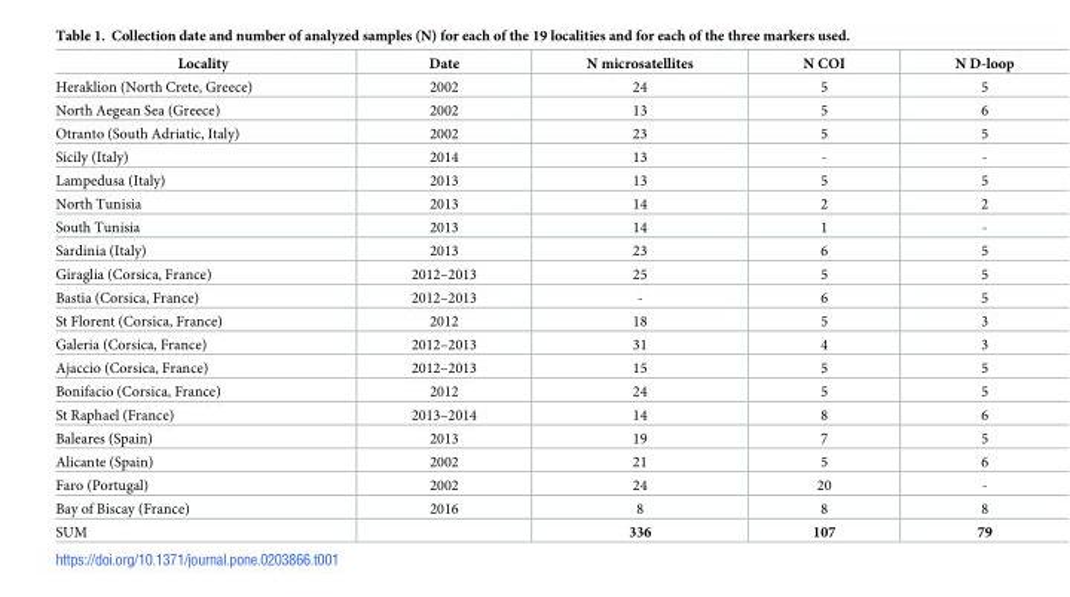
<table><thead><tr><td>Locality</td><td>Date</td><td>N microsatellites</td><td>N COI</td><td>N D-loop</td></tr></thead><tbody><tr><td>Heraklion (North Crete, Greece)</td><td>2002</td><td>24</td><td>5</td><td>5</td></tr><tr><td>North Aegean Sea (Greece)</td><td>2002</td><td>13</td><td>5</td><td>6</td></tr><tr><td>Otranto (South Adriatic, Italy)</td><td>2002</td><td>23</td><td>5</td><td>5</td></tr><tr><td>Sicily (Italy)</td><td>2014</td><td>13</td><td>-</td><td>-</td></tr><tr><td>Lampedusa (Italy)</td><td>2013</td><td>13</td><td>5</td><td>5</td></tr><tr><td>North Tunisia</td><td>2013</td><td>14</td><td>2</td><td>2</td></tr><tr><td>South Tunisia</td><td>2013</td><td>14</td><td>1</td><td>-</td></tr><tr><td>Sardinia (Italy)</td><td>2013</td><td>23</td><td>6</td><td>5</td></tr><tr><td>Giraglia (Corsica, France)</td><td>2012–2013</td><td>25</td><td>5</td><td>5</td></tr><tr><td>Bastia (Corsica, France)</td><td>2012–2013</td><td>-</td><td>6</td><td>5</td></tr><tr><td>St Florent (Corsica, France)</td><td>2012</td><td>18</td><td>5</td><td>3</td></tr><tr><td>Galeria (Corsica, France)</td><td>2012–2013</td><td>31</td><td>4</td><td>3</td></tr><tr><td>Ajaccio (Corsica, France)</td><td>2012–2013</td><td>15</td><td>5</td><td>5</td></tr><tr><td>Bonifacio (Corsica, France)</td><td>2012</td><td>24</td><td>5</td><td>5</td></tr><tr><td>St Raphael (France)</td><td>2013–2014</td><td>14</td><td>8</td><td>6</td></tr><tr><td>Baleares (Spain)</td><td>2013</td><td>19</td><td>7</td><td>5</td></tr><tr><td>Alicante (Spain)</td><td>2002</td><td>21</td><td>5</td><td>6</td></tr><tr><td>Faro (Portugal)</td><td>2002</td><td>24</td><td>20</td><td>-</td></tr><tr><td>Bay of Biscay (France)</td><td>2016</td><td>8</td><td>8</td><td>8</td></tr><tr><td>SUM</td><td></td><td>336</td><td>107</td><td>79</td></tr></tbody></table>